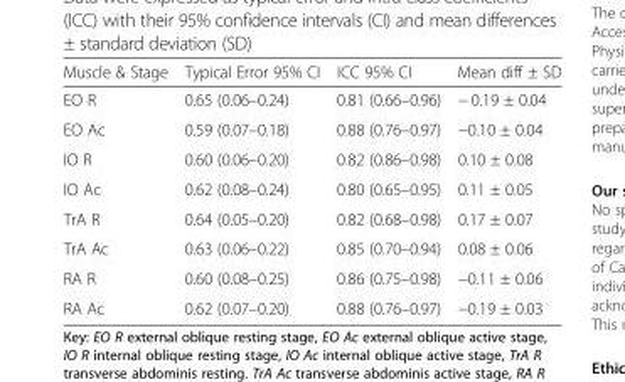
<table><thead><tr><td>Muscle &amp; Stage</td><td>Typical Error 95% CI</td><td>ICC 95% CI</td><td>Mean diff ± SD</td></tr></thead><tbody><tr><td>EO R</td><td>0.65 (0.06–0.24)</td><td>0.81 (0.66–0.96)</td><td>− 0.19 ± 0.04</td></tr><tr><td>EO Ac</td><td>0.59 (0.07–0.18)</td><td>0.88 (0.76–0.97)</td><td>−0.10 ± 0.04</td></tr><tr><td>IO R</td><td>0.60 (0.06–0.20)</td><td>0.82 (0.86–0.98)</td><td>0.10 ± 0.08</td></tr><tr><td>IO Ac</td><td>0.62 (0.08–0.24)</td><td>0.80 (0.65–0.95)</td><td>0.11 ± 0.05</td></tr><tr><td>TrA R</td><td>0.64 (0.05–0.20)</td><td>0.82 (0.68–0.98)</td><td>0.17 ± 0.07</td></tr><tr><td>TrA Ac</td><td>0.63 (0.06–0.22)</td><td>0.85 (0.70–0.94)</td><td>0.08 ± 0.06</td></tr><tr><td>RA R</td><td>0.60 (0.08–0.25)</td><td>0.86 (0.75–0.98)</td><td>−0.11 ± 0.06</td></tr><tr><td>RA Ac</td><td>0.62 (0.07–0.20)</td><td>0.88 (0.76–0.97)</td><td>−0.19 ± 0.03</td></tr></tbody></table>